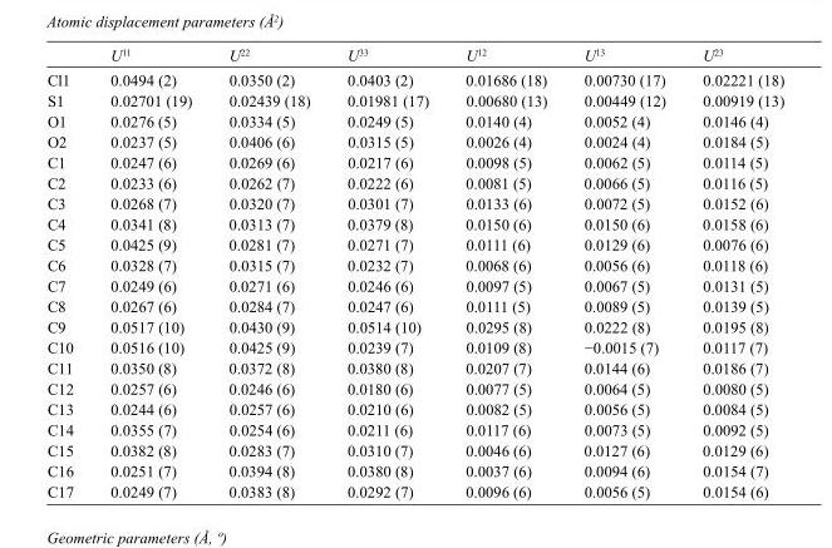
<table><thead><tr><td></td><td>U<sup>11</sup></td><td>U<sup>22</sup></td><td>U<sup>33</sup></td><td>U<sup>12</sup></td><td>U<sup>13</sup></td><td>U<sup>23</sup></td></tr></thead><tbody><tr><td>Cl1</td><td>0.0494 (2)</td><td>0.0350 (2)</td><td>0.0403 (2)</td><td>0.01686 (18)</td><td>0.00730 (17)</td><td>0.02221 (18)</td></tr><tr><td>S1</td><td>0.02701 (19)</td><td>0.02439 (18)</td><td>0.01981 (17)</td><td>0.00680 (13)</td><td>0.00449 (12)</td><td>0.00919 (13)</td></tr><tr><td>O1</td><td>0.0276 (5)</td><td>0.0334 (5)</td><td>0.0249 (5)</td><td>0.0140 (4)</td><td>0.0052 (4)</td><td>0.0146 (4)</td></tr><tr><td>O2</td><td>0.0237 (5)</td><td>0.0406 (6)</td><td>0.0315 (5)</td><td>0.0026 (4)</td><td>0.0024 (4)</td><td>0.0184 (5)</td></tr><tr><td>C1</td><td>0.0247 (6)</td><td>0.0269 (6)</td><td>0.0217 (6)</td><td>0.0098 (5)</td><td>0.0062 (5)</td><td>0.0114 (5)</td></tr><tr><td>C2</td><td>0.0233 (6)</td><td>0.0262 (7)</td><td>0.0222 (6)</td><td>0.0081 (5)</td><td>0.0066 (5)</td><td>0.0116 (5)</td></tr><tr><td>C3</td><td>0.0268 (7)</td><td>0.0320 (7)</td><td>0.0301 (7)</td><td>0.0133 (6)</td><td>0.0072 (5)</td><td>0.0152 (6)</td></tr><tr><td>C4</td><td>0.0341 (8)</td><td>0.0313 (7)</td><td>0.0379 (8)</td><td>0.0150 (6)</td><td>0.0150 (6)</td><td>0.0158 (6)</td></tr><tr><td>C5</td><td>0.0425 (9)</td><td>0.0281 (7)</td><td>0.0271 (7)</td><td>0.0111 (6)</td><td>0.0129 (6)</td><td>0.0076 (6)</td></tr><tr><td>C6</td><td>0.0328 (7)</td><td>0.0315 (7)</td><td>0.0232 (7)</td><td>0.0068 (6)</td><td>0.0056 (6)</td><td>0.0118 (6)</td></tr><tr><td>C7</td><td>0.0249 (6)</td><td>0.0271 (6)</td><td>0.0246 (6)</td><td>0.0097 (5)</td><td>0.0067 (5)</td><td>0.0131 (5)</td></tr><tr><td>C8</td><td>0.0267 (6)</td><td>0.0284 (7)</td><td>0.0247 (6)</td><td>0.0111 (5)</td><td>0.0089 (5)</td><td>0.0139 (5)</td></tr><tr><td>C9</td><td>0.0517 (10)</td><td>0.0430 (9)</td><td>0.0514 (10)</td><td>0.0295 (8)</td><td>0.0222 (8)</td><td>0.0195 (8)</td></tr><tr><td>C10</td><td>0.0516 (10)</td><td>0.0425 (9)</td><td>0.0239 (7)</td><td>0.0109 (8)</td><td>−0.0015 (7)</td><td>0.0117 (7)</td></tr><tr><td>C11</td><td>0.0350 (8)</td><td>0.0372 (8)</td><td>0.0380 (8)</td><td>0.0207 (7)</td><td>0.0144 (6)</td><td>0.0186 (7)</td></tr><tr><td>C12</td><td>0.0257 (6)</td><td>0.0246 (6)</td><td>0.0180 (6)</td><td>0.0077 (5)</td><td>0.0064 (5)</td><td>0.0080 (5)</td></tr><tr><td>C13</td><td>0.0244 (6)</td><td>0.0257 (6)</td><td>0.0210 (6)</td><td>0.0082 (5)</td><td>0.0056 (5)</td><td>0.0084 (5)</td></tr><tr><td>C14</td><td>0.0355 (7)</td><td>0.0254 (6)</td><td>0.0211 (6)</td><td>0.0117 (6)</td><td>0.0073 (5)</td><td>0.0092 (5)</td></tr><tr><td>C15</td><td>0.0382 (8)</td><td>0.0283 (7)</td><td>0.0310 (7)</td><td>0.0046 (6)</td><td>0.0127 (6)</td><td>0.0129 (6)</td></tr><tr><td>C16</td><td>0.0251 (7)</td><td>0.0394 (8)</td><td>0.0380 (8)</td><td>0.0037 (6)</td><td>0.0094 (6)</td><td>0.0154 (7)</td></tr><tr><td>C17</td><td>0.0249 (7)</td><td>0.0383 (8)</td><td>0.0292 (7)</td><td>0.0096 (6)</td><td>0.0056 (5)</td><td>0.0154 (6)</td></tr></tbody></table>